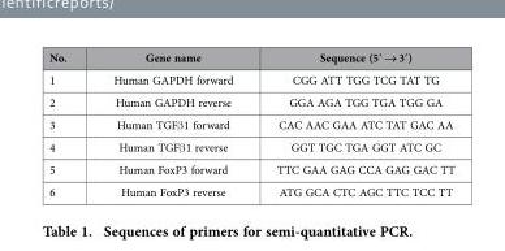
<table><thead><tr><td>No.</td><td>Gene name</td><td>Sequence (5′ → 3′)</td></tr></thead><tbody><tr><td>1</td><td>Human GAPDH forward</td><td>CGG ATT TGG TCG TAT TG</td></tr><tr><td>2</td><td>Human GAPDH reverse</td><td>GGA AGA TGG TGA TGG GA</td></tr><tr><td>3</td><td>Human TGFβ 1 forward</td><td>CAC AAC GAA ATC TAT GAC AA</td></tr><tr><td>4</td><td>Human TGFβ 1 reverse</td><td>GGT TGC TGA GGT ATC GC</td></tr><tr><td>5</td><td>Human FoxP3 forward</td><td>TTC GAA GAG CCA GAG GAC TT</td></tr><tr><td>6</td><td>Human FoxP3 reverse</td><td>ATG GCA CTC AGC TTC TCC TT</td></tr></tbody></table>